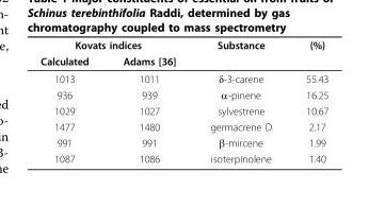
<table><thead><tr><td colspan="2">Kovats indices</td><td rowspan="2">Substance</td><td rowspan="2">(%)</td></tr><tr><td>Calculated</td><td>Adams [36]</td></tr></thead><tbody><tr><td>1013</td><td>1011</td><td>δ-3-carene</td><td>55.43</td></tr><tr><td>936</td><td>939</td><td>α-pinene</td><td>16.25</td></tr><tr><td>1029</td><td>1027</td><td>sylvestrene</td><td>10.67</td></tr><tr><td>1477</td><td>1480</td><td>germacrene D</td><td>2.17</td></tr><tr><td>991</td><td>991</td><td>β-mircene</td><td>1.99</td></tr><tr><td>1087</td><td>1086</td><td>isoterpinolene</td><td>1.40</td></tr></tbody></table>